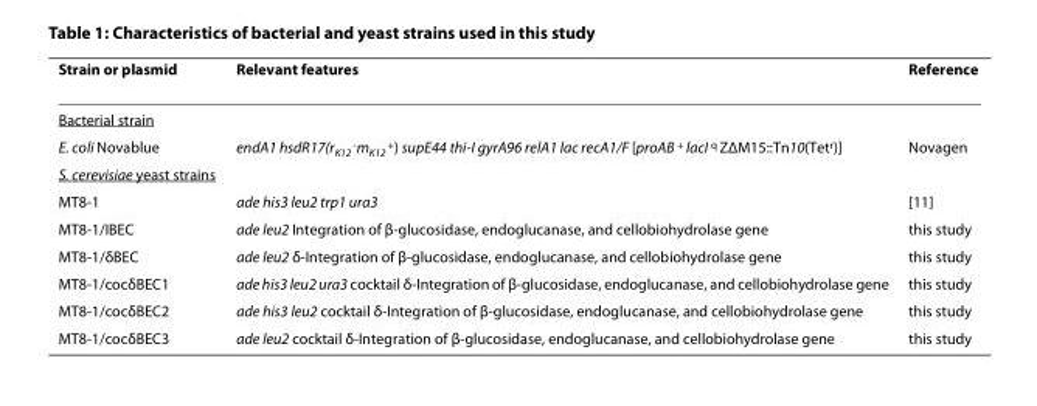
<table><thead><tr><td>Strain or plasmid</td><td>Relevant features</td><td>Reference</td></tr></thead><tbody><tr><td colspan="3">Bacterial strain</td></tr><tr><td>E. coli Novablue</td><td>endA1 hsdR17(r<sub>K12</sub> <sup>-</sup>m<sub>K12</sub> <sup>+</sup>) supE44 thi-I gyrA96 relA1 lac recA1/F [proAB <sup>+</sup> lacI <sup>q</sup> ZΔM15::Tn10(Tet<sup>r</sup>)]</td><td>Novagen</td></tr><tr><td colspan="3">S. cerevisiae yeast strains</td></tr><tr><td>MT8-1</td><td>ade his3 leu2 trp1 ura3</td><td>[11]</td></tr><tr><td>MT8-1/IBEC</td><td>ade leu2 Integration of β-glucosidase, endoglucanase, and cellobiohydrolase gene</td><td>this study</td></tr><tr><td>MT8-1/δBEC</td><td>ade leu2 δ-Integration of β-glucosidase, endoglucanase, and cellobiohydrolase gene</td><td>this study</td></tr><tr><td>MT8-1/cocδBEC1</td><td>ade his3 leu2 ura3 cocktail δ-Integration of β-glucosidase, endoglucanase, and cellobiohydrolase gene</td><td>this study</td></tr><tr><td>MT8-1/cocδBEC2</td><td>ade his3 leu2 cocktail δ-Integration of β-glucosidase, endoglucanase, and cellobiohydrolase gene</td><td>this study</td></tr><tr><td>MT8-1/cocδBEC3</td><td>ade leu2 cocktail δ-Integration of β-glucosidase, endoglucanase, and cellobiohydrolase gene</td><td>this study</td></tr></tbody></table>